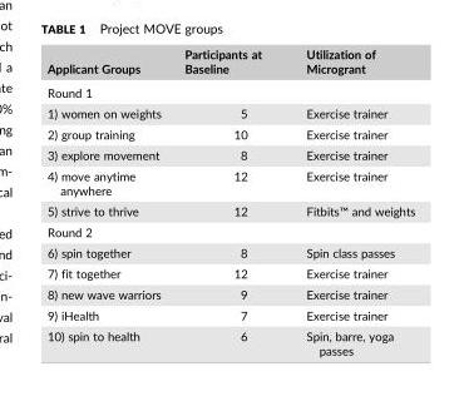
<table><thead><tr><td>Applicant Groups</td><td>Participants at Baseline</td><td>Utilization of Microgrant</td></tr></thead><tbody><tr><td colspan="3">Round 1</td></tr><tr><td>1) women on weights</td><td>5</td><td>Exercise trainer</td></tr><tr><td>2) group training</td><td>10</td><td>Exercise trainer</td></tr><tr><td>3) explore movement</td><td>8</td><td>Exercise trainer</td></tr><tr><td>4) move anytime anywhere</td><td>12</td><td>Exercise trainer</td></tr><tr><td>5) strive to thrive</td><td>12</td><td>Fitbits™ and weights</td></tr><tr><td colspan="3">Round 2</td></tr><tr><td>6) spin together</td><td>8</td><td>Spin class passes</td></tr><tr><td>7) fit together</td><td>12</td><td>Exercise trainer</td></tr><tr><td>8) new wave warriors</td><td>9</td><td>Exercise trainer</td></tr><tr><td>9) iHealth</td><td>7</td><td>Exercise trainer</td></tr><tr><td>10) spin to health</td><td>6</td><td>Spin, barre, yoga passes</td></tr></tbody></table>